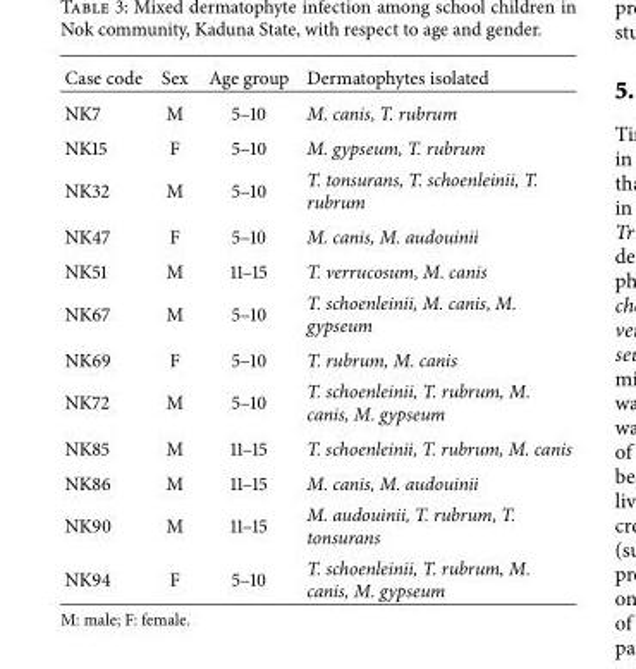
<table><thead><tr><td>Case code</td><td>Sex</td><td>Age group</td><td>Dermatophytes isolated</td></tr></thead><tbody><tr><td>NK7</td><td>M</td><td>5–10</td><td>M. canis, T. rubrum</td></tr><tr><td>NK15</td><td>F</td><td>5–10</td><td>M. gypseum, T. rubrum</td></tr><tr><td>NK32</td><td>M</td><td>5–10</td><td>T. tonsurans, T. schoenleinii, T. rubrum</td></tr><tr><td>NK47</td><td>F</td><td>5–10</td><td>M. canis, M. audouinii</td></tr><tr><td>NK51</td><td>M</td><td>11–15</td><td>T. verrucosum, M. canis</td></tr><tr><td>NK67</td><td>M</td><td>5–10</td><td>T. schoenleinii, M. canis, M. gypseum</td></tr><tr><td>NK69</td><td>F</td><td>5–10</td><td>T. rubrum, M. canis</td></tr><tr><td>NK72</td><td>M</td><td>5–10</td><td>T. schoenleinii, T. rubrum, M. canis, M. gypseum</td></tr><tr><td>NK85</td><td>M</td><td>11–15</td><td>T. schoenleinii, T. rubrum, M. canis</td></tr><tr><td>NK86</td><td>M</td><td>11–15</td><td>M. canis, M. audouinii</td></tr><tr><td>NK90</td><td>M</td><td>11–15</td><td>M. audouinii, T. rubrum, T. tonsurans</td></tr><tr><td>NK94</td><td>F</td><td>5–10</td><td>T. schoenleinii, T. rubrum, M. canis, M. gypseum</td></tr></tbody></table>